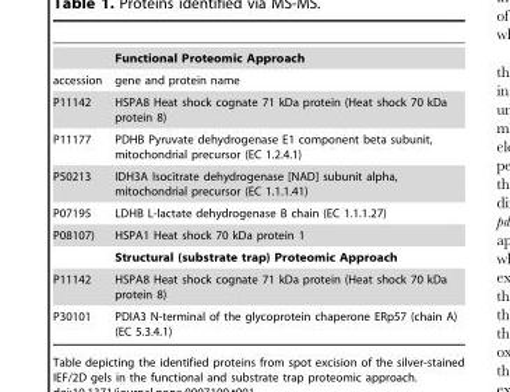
<table><thead><tr><td></td><td>Functional Proteomic Approach</td></tr></thead><tbody><tr><td>accession</td><td>gene and protein name</td></tr><tr><td>P11142</td><td>HSPA8 Heat shock cognate 71 kDa protein (Heat shock 70 kDa protein 8)</td></tr><tr><td>P11177</td><td>PDHB Pyruvate dehydrogenase E1 component beta subunit, mitochondrial precursor (EC 1.2.4.1)</td></tr><tr><td>P50213</td><td>IDH3A Isocitrate dehydrogenase [NAD] subunit alpha, mitochondrial precursor (EC 1.1.1.41)</td></tr><tr><td>P07195</td><td>LDHB L-lactate dehydrogenase B chain (EC 1.1.1.27)</td></tr><tr><td rowspan="2">P08107)</td><td>HSPA1 Heat shock 70 kDa protein 1</td></tr><tr><td>Structural (substrate trap) Proteomic Approach</td></tr><tr><td>P11142</td><td>HSPA8 Heat shock cognate 71 kDa protein (Heat shock 70 kDa protein 8)</td></tr><tr><td>P30101</td><td>PDIA3 N-terminal of the glycoprotein chaperone ERp57 (chain A) (EC 5.3.4.1)</td></tr></tbody></table>